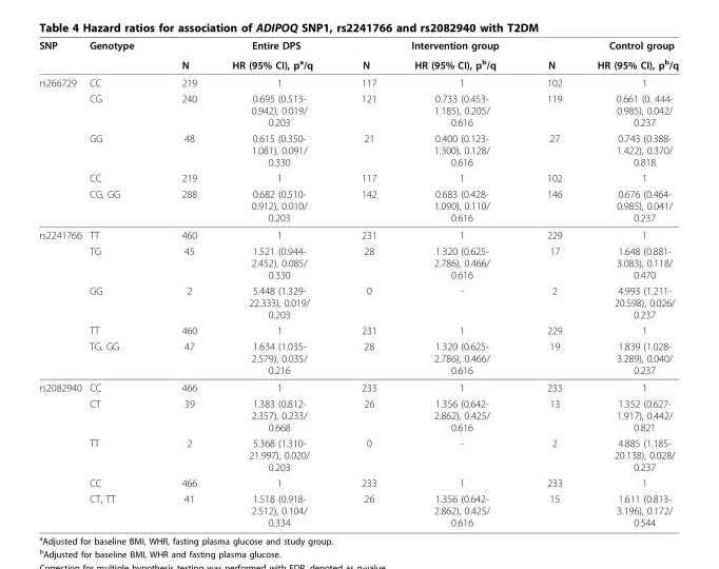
<table><thead><tr><td rowspan="2">SNP</td><td rowspan="2">Genotype</td><td rowspan="2">N</td><td rowspan="2">Entire DPS HR (95% CI), p<sup>a</sup>/q</td><td rowspan="2">N</td><td rowspan="2">Intervention group HR (95% CI), p<sup>b</sup>/q</td><td rowspan="2">N</td><td rowspan="2">Control group HR (95% CI), p<sup>b</sup>/q</td></tr><tr></tr></thead><tbody><tr><td rowspan="5">rs266729</td><td>CC</td><td>219</td><td>1</td><td>117</td><td>1</td><td>102</td><td>1</td></tr><tr><td>CG</td><td>240</td><td>0.695 (0.513- 0.942), 0.019/ 0.203</td><td>121</td><td>0.733 (0.453- 1.185), 0.205/ 0.616</td><td>119</td><td>0.661 (0. 444- 0.985), 0.042/ 0.237</td></tr><tr><td>GG</td><td>48</td><td>0.615 (0.350- 1.081), 0.091/ 0.330</td><td>21</td><td>0.400 (0.123- 1.300), 0.128/ 0.616</td><td>27</td><td>0.743 (0.388- 1.422), 0.370/ 0.818</td></tr><tr><td>CC</td><td>219</td><td>1</td><td>117</td><td>1</td><td>102</td><td>1</td></tr><tr><td>CG, GG</td><td>288</td><td>0.682 (0.510- 0.912), 0.010/ 0.203</td><td>142</td><td>0.683 (0.428- 1.090), 0.110/ 0.616</td><td>146</td><td>0.676 (0.464- 0.985), 0.041/ 0.237</td></tr><tr><td rowspan="5">rs2241766</td><td>TT</td><td>460</td><td>1</td><td>231</td><td>1</td><td>229</td><td>1</td></tr><tr><td>TG</td><td>45</td><td>1.521 (0.944- 2.452), 0.085/ 0.330</td><td>28</td><td>1.320 (0.625- 2.786), 0.466/ 0.616</td><td>17</td><td>1.648 (0.881- 3.083), 0.118/ 0.470</td></tr><tr><td>GG</td><td>2</td><td>5.448 (1.329- 22.333), 0.019/ 0.203</td><td>0</td><td>-</td><td>2</td><td>4.993 (1.211- 20.598), 0.026/ 0.237</td></tr><tr><td>TT</td><td>460</td><td>1</td><td>231</td><td>1</td><td>229</td><td>1</td></tr><tr><td>TG, GG</td><td>47</td><td>1.634 (1.035- 2.579), 0.035/ 0.216</td><td>28</td><td>1.320 (0.625- 2.786), 0.466/ 0.616</td><td>19</td><td>1.839 (1.028- 3.289), 0.040/ 0.237</td></tr><tr><td rowspan="5">rs2082940</td><td>CC</td><td>466</td><td>1</td><td>233</td><td>1</td><td>233</td><td>1</td></tr><tr><td>CT</td><td>39</td><td>1.383 (0.812- 2.357), 0.233/ 0.668</td><td>26</td><td>1.356 (0.642- 2.862), 0.425/ 0.616</td><td>13</td><td>1.352 (0.627- 1.917), 0.442/ 0.821</td></tr><tr><td>TT</td><td>2</td><td>5.368 (1.310- 21.997), 0.020/ 0.203</td><td>0</td><td>-</td><td>2</td><td>4.885 (1.185- 20.138), 0.028/ 0.237</td></tr><tr><td>CC</td><td>466</td><td>1</td><td>233</td><td>1</td><td>233</td><td>1</td></tr><tr><td>CT, TT</td><td>41</td><td>1.518 (0.918- 2.512), 0.104/ 0.334</td><td>26</td><td>1.356 (0.642- 2.862), 0.425/ 0.616</td><td>15</td><td>1.611 (0.813- 3.196), 0.172/ 0.544</td></tr></tbody></table>